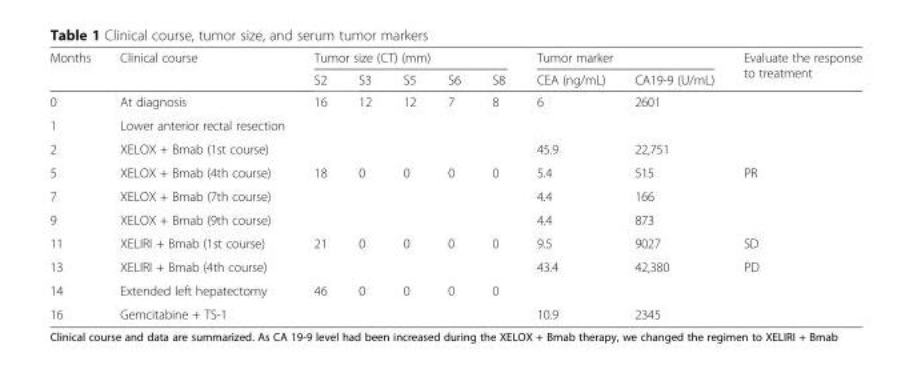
<table><thead><tr><td rowspan="2">Months</td><td rowspan="2">Clinical course</td><td colspan="5">Tumor size (CT) (mm)</td><td colspan="2">Tumor marker</td><td rowspan="2">Evaluate the response to treatment</td></tr><tr><td>S2</td><td>S3</td><td>S5</td><td>S6</td><td>S8</td><td>CEA (ng/mL)</td><td>CA19-9 (U/mL)</td></tr></thead><tbody><tr><td>0</td><td>At diagnosis</td><td>16</td><td>12</td><td>12</td><td>7</td><td>8</td><td>6</td><td>2601</td><td></td></tr><tr><td>1</td><td>Lower anterior rectal resection</td><td></td><td></td><td></td><td></td><td></td><td></td><td></td><td></td></tr><tr><td>2</td><td>XELOX + Bmab (1st course)</td><td></td><td></td><td></td><td></td><td></td><td>45.9</td><td>22,751</td><td></td></tr><tr><td>5</td><td>XELOX + Bmab (4th course)</td><td>18</td><td>0</td><td>0</td><td>0</td><td>0</td><td>5.4</td><td>515</td><td>PR</td></tr><tr><td>7</td><td>XELOX + Bmab (7th course)</td><td></td><td></td><td></td><td></td><td></td><td>4.4</td><td>166</td><td></td></tr><tr><td>9</td><td>XELOX + Bmab (9th course)</td><td></td><td></td><td></td><td></td><td></td><td>4.4</td><td>873</td><td></td></tr><tr><td>11</td><td>XELIRI + Bmab (1st course)</td><td>21</td><td>0</td><td>0</td><td>0</td><td>0</td><td>9.5</td><td>9027</td><td>SD</td></tr><tr><td>13</td><td>XELIRI + Bmab (4th course)</td><td></td><td></td><td></td><td></td><td></td><td>43.4</td><td>42,380</td><td>PD</td></tr><tr><td>14</td><td>Extended left hepatectomy</td><td>46</td><td>0</td><td>0</td><td>0</td><td>0</td><td></td><td></td><td></td></tr><tr><td>16</td><td>Gemcitabine + TS-1</td><td></td><td></td><td></td><td></td><td></td><td>10.9</td><td>2345</td><td></td></tr></tbody></table>